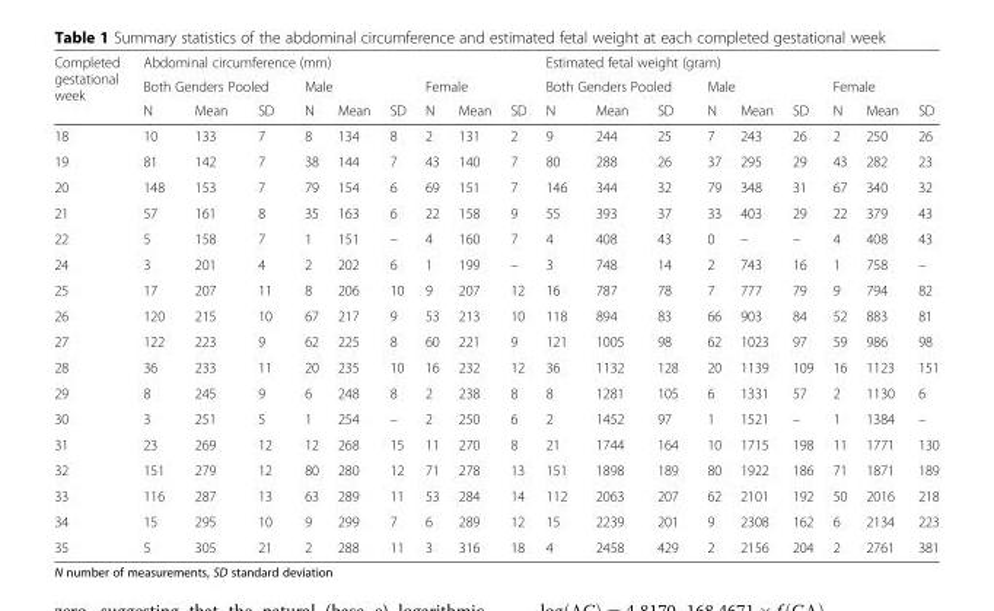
<table><thead><tr><td rowspan="3">Completed gestational week</td><td colspan="9">Abdominal circumference (mm)</td><td colspan="9">Estimated fetal weight (gram)</td></tr><tr><td colspan="3">Both Genders Pooled</td><td colspan="3">Male</td><td colspan="3">Female</td><td colspan="3">Both Genders Pooled</td><td colspan="3">Male</td><td colspan="3">Female</td></tr><tr><td>N</td><td>Mean</td><td>SD</td><td>N</td><td>Mean</td><td>SD</td><td>N</td><td>Mean</td><td>SD</td><td>N</td><td>Mean</td><td>SD</td><td>N</td><td>Mean</td><td>SD</td><td>N</td><td>Mean</td><td>SD</td></tr></thead><tbody><tr><td>18</td><td>10</td><td>133</td><td>7</td><td>8</td><td>134</td><td>8</td><td>2</td><td>131</td><td>2</td><td>9</td><td>244</td><td>25</td><td>7</td><td>243</td><td>26</td><td>2</td><td>250</td><td>26</td></tr><tr><td>19</td><td>81</td><td>142</td><td>7</td><td>38</td><td>144</td><td>7</td><td>43</td><td>140</td><td>7</td><td>80</td><td>288</td><td>26</td><td>37</td><td>295</td><td>29</td><td>43</td><td>282</td><td>23</td></tr><tr><td>20</td><td>148</td><td>153</td><td>7</td><td>79</td><td>154</td><td>6</td><td>69</td><td>151</td><td>7</td><td>146</td><td>344</td><td>32</td><td>79</td><td>348</td><td>31</td><td>67</td><td>340</td><td>32</td></tr><tr><td>21</td><td>57</td><td>161</td><td>8</td><td>35</td><td>163</td><td>6</td><td>22</td><td>158</td><td>9</td><td>55</td><td>393</td><td>37</td><td>33</td><td>403</td><td>29</td><td>22</td><td>379</td><td>43</td></tr><tr><td>22</td><td>5</td><td>158</td><td>7</td><td>1</td><td>151</td><td>–</td><td>4</td><td>160</td><td>7</td><td>4</td><td>408</td><td>43</td><td>0</td><td>–</td><td>–</td><td>4</td><td>408</td><td>43</td></tr><tr><td>24</td><td>3</td><td>201</td><td>4</td><td>2</td><td>202</td><td>6</td><td>1</td><td>199</td><td>–</td><td>3</td><td>748</td><td>14</td><td>2</td><td>743</td><td>16</td><td>1</td><td>758</td><td>–</td></tr><tr><td>25</td><td>17</td><td>207</td><td>11</td><td>8</td><td>206</td><td>10</td><td>9</td><td>207</td><td>12</td><td>16</td><td>787</td><td>78</td><td>7</td><td>777</td><td>79</td><td>9</td><td>794</td><td>82</td></tr><tr><td>26</td><td>120</td><td>215</td><td>10</td><td>67</td><td>217</td><td>9</td><td>53</td><td>213</td><td>10</td><td>118</td><td>894</td><td>83</td><td>66</td><td>903</td><td>84</td><td>52</td><td>883</td><td>81</td></tr><tr><td>27</td><td>122</td><td>223</td><td>9</td><td>62</td><td>225</td><td>8</td><td>60</td><td>221</td><td>9</td><td>121</td><td>1005</td><td>98</td><td>62</td><td>1023</td><td>97</td><td>59</td><td>986</td><td>98</td></tr><tr><td>28</td><td>36</td><td>233</td><td>11</td><td>20</td><td>235</td><td>10</td><td>16</td><td>232</td><td>12</td><td>36</td><td>1132</td><td>128</td><td>20</td><td>1139</td><td>109</td><td>16</td><td>1123</td><td>151</td></tr><tr><td>29</td><td>8</td><td>245</td><td>9</td><td>6</td><td>248</td><td>8</td><td>2</td><td>238</td><td>8</td><td>8</td><td>1281</td><td>105</td><td>6</td><td>1331</td><td>57</td><td>2</td><td>1130</td><td>6</td></tr><tr><td>30</td><td>3</td><td>251</td><td>5</td><td>1</td><td>254</td><td>–</td><td>2</td><td>250</td><td>6</td><td>2</td><td>1452</td><td>97</td><td>1</td><td>1521</td><td>–</td><td>1</td><td>1384</td><td>–</td></tr><tr><td>31</td><td>23</td><td>269</td><td>12</td><td>12</td><td>268</td><td>15</td><td>11</td><td>270</td><td>8</td><td>21</td><td>1744</td><td>164</td><td>10</td><td>1715</td><td>198</td><td>11</td><td>1771</td><td>130</td></tr><tr><td>32</td><td>151</td><td>279</td><td>12</td><td>80</td><td>280</td><td>12</td><td>71</td><td>278</td><td>13</td><td>151</td><td>1898</td><td>189</td><td>80</td><td>1922</td><td>186</td><td>71</td><td>1871</td><td>189</td></tr><tr><td>33</td><td>116</td><td>287</td><td>13</td><td>63</td><td>289</td><td>11</td><td>53</td><td>284</td><td>14</td><td>112</td><td>2063</td><td>207</td><td>62</td><td>2101</td><td>192</td><td>50</td><td>2016</td><td>218</td></tr><tr><td>34</td><td>15</td><td>295</td><td>10</td><td>9</td><td>299</td><td>7</td><td>6</td><td>289</td><td>12</td><td>15</td><td>2239</td><td>201</td><td>9</td><td>2308</td><td>162</td><td>6</td><td>2134</td><td>223</td></tr><tr><td>35</td><td>5</td><td>305</td><td>21</td><td>2</td><td>288</td><td>11</td><td>3</td><td>316</td><td>18</td><td>4</td><td>2458</td><td>429</td><td>2</td><td>2156</td><td>204</td><td>2</td><td>2761</td><td>381</td></tr></tbody></table>